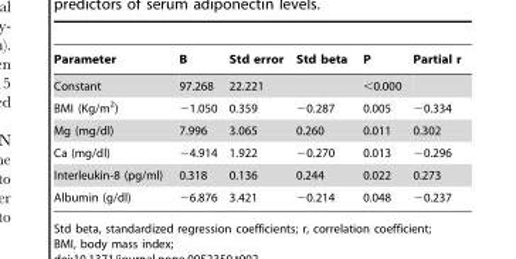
<table><thead><tr><td>Parameter</td><td>B</td><td>Std error</td><td>Std beta</td><td>P</td><td>Partial r</td></tr></thead><tbody><tr><td>Constant</td><td>97.268</td><td>22.221</td><td></td><td>&lt;0.000</td><td></td></tr><tr><td>BMI (Kg/m<sup>2</sup>)</td><td>−1.050</td><td>0.359</td><td>−0.287</td><td>0.005</td><td>−0.334</td></tr><tr><td>Mg (mg/dl)</td><td>7.996</td><td>3.065</td><td>0.260</td><td>0.011</td><td>0.302</td></tr><tr><td>Ca (mg/dl)</td><td>−4.914</td><td>1.922</td><td>−0.270</td><td>0.013</td><td>−0.296</td></tr><tr><td>Interleukin-8 (pg/ml)</td><td>0.318</td><td>0.136</td><td>0.244</td><td>0.022</td><td>0.273</td></tr><tr><td>Albumin (g/dl)</td><td>−6.876</td><td>3.421</td><td>−0.214</td><td>0.048</td><td>−0.237</td></tr></tbody></table>